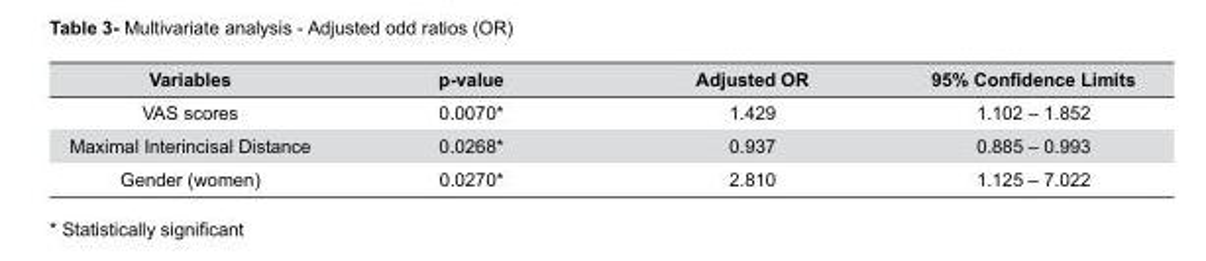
<table><thead><tr><td>Variables</td><td>p-value</td><td>Adjusted OR</td><td>95% Confidence Limits</td></tr></thead><tbody><tr><td>VAS scores</td><td>0.0070*</td><td>1.429</td><td>1.102 – 1.852</td></tr><tr><td>Maximal Interincisal Distance</td><td>0.0268*</td><td>0.937</td><td>0.885 – 0.993</td></tr><tr><td>Gender (women)</td><td>0.0270*</td><td>2.810</td><td>1.125 – 7.022</td></tr></tbody></table>